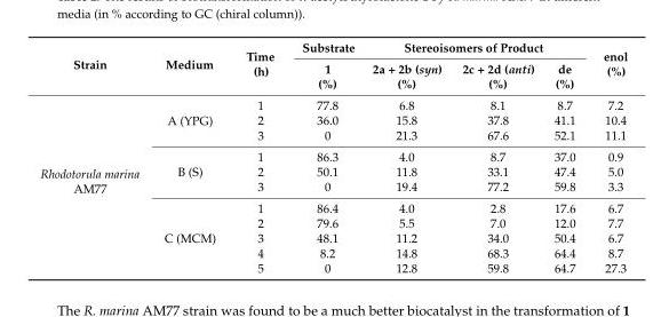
<table><thead><tr><td rowspan="2">Strain</td><td rowspan="2">Medium</td><td rowspan="2">Time (h)</td><td rowspan="2">Substrate 1 (%)</td><td colspan="3">Stereoisomers of Product</td><td rowspan="2">enol (%)</td></tr><tr><td>2a + 2b (syn) (%)</td><td>2c + 2d (anti) (%)</td><td>de (%)</td></tr></thead><tbody><tr><td rowspan="11">Rhodotorula marina AM77</td><td rowspan="3">A (YPG)</td><td>1</td><td>77.8</td><td>6.8</td><td>8.1</td><td>8.7</td><td>7.2</td></tr><tr><td>2</td><td>36.0</td><td>15.8</td><td>37.8</td><td>41.1</td><td>10.4</td></tr><tr><td>3</td><td>0</td><td>21.3</td><td>67.6</td><td>52.1</td><td>11.1</td></tr><tr><td rowspan="3">B (S)</td><td>1</td><td>86.3</td><td>4.0</td><td>8.7</td><td>37.0</td><td>0.9</td></tr><tr><td>2</td><td>50.1</td><td>11.8</td><td>33.1</td><td>47.4</td><td>5.0</td></tr><tr><td>3</td><td>0</td><td>19.4</td><td>77.2</td><td>59.8</td><td>3.3</td></tr><tr><td rowspan="5">C (MCM)</td><td>1</td><td>86.4</td><td>4.0</td><td>2.8</td><td>17.6</td><td>6.7</td></tr><tr><td>2</td><td>79.6</td><td>5.5</td><td>7.0</td><td>12.0</td><td>7.7</td></tr><tr><td>3</td><td>48.1</td><td>11.2</td><td>34.0</td><td>50.4</td><td>6.7</td></tr><tr><td>4</td><td>8.2</td><td>14.8</td><td>68.3</td><td>64.4</td><td>8.7</td></tr><tr><td>5</td><td>0</td><td>12.8</td><td>59.8</td><td>64.7</td><td>27.3</td></tr></tbody></table>